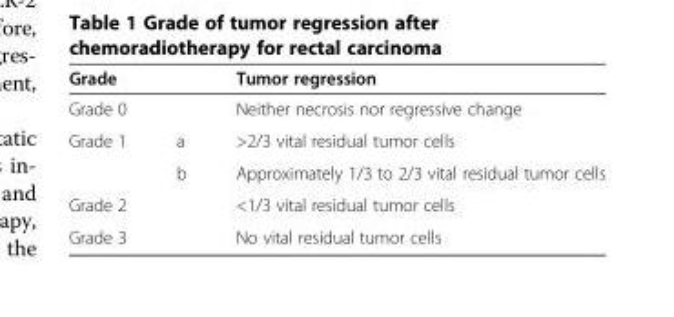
<table><thead><tr><td>Grade</td><td></td><td>Tumor regression</td></tr></thead><tbody><tr><td>Grade 0</td><td></td><td>Neither necrosis nor regressive change</td></tr><tr><td rowspan="2">Grade 1</td><td>a</td><td>&gt;2/3 vital residual tumor cells</td></tr><tr><td>b</td><td>Approximately 1/3 to 2/3 vital residual tumor cells</td></tr><tr><td>Grade 2</td><td></td><td>&lt;1/3 vital residual tumor cells</td></tr><tr><td>Grade 3</td><td></td><td>No vital residual tumor cells</td></tr></tbody></table>